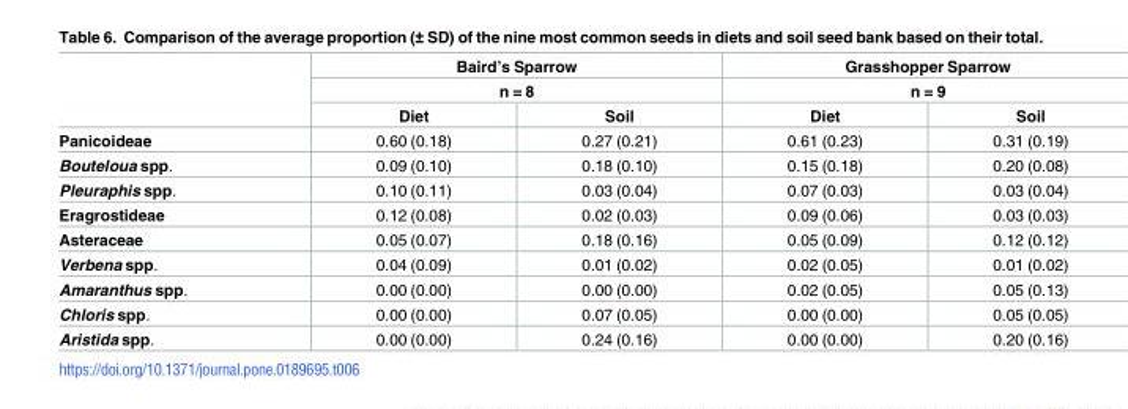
<table><thead><tr><td rowspan="3"></td><td rowspan="2" colspan="2">Baird’s Sparrow n = 8</td><td rowspan="2" colspan="2">Grasshopper Sparrow n = 9</td></tr><tr></tr><tr><td>Diet</td><td>Soil</td><td>Diet</td><td>Soil</td></tr></thead><tbody><tr><td>Panicoideae</td><td>0.60 (0.18)</td><td>0.27 (0.21)</td><td>0.61 (0.23)</td><td>0.31 (0.19)</td></tr><tr><td>Bouteloua spp.</td><td>0.09 (0.10)</td><td>0.18 (0.10)</td><td>0.15 (0.18)</td><td>0.20 (0.08)</td></tr><tr><td>Pleuraphis spp.</td><td>0.10 (0.11)</td><td>0.03 (0.04)</td><td>0.07 (0.03)</td><td>0.03 (0.04)</td></tr><tr><td>Eragrostideae</td><td>0.12 (0.08)</td><td>0.02 (0.03)</td><td>0.09 (0.06)</td><td>0.03 (0.03)</td></tr><tr><td>Asteraceae</td><td>0.05 (0.07)</td><td>0.18 (0.16)</td><td>0.05 (0.09)</td><td>0.12 (0.12)</td></tr><tr><td>Verbena spp.</td><td>0.04 (0.09)</td><td>0.01 (0.02)</td><td>0.02 (0.05)</td><td>0.01 (0.02)</td></tr><tr><td>Amaranthus spp.</td><td>0.00 (0.00)</td><td>0.00 (0.00)</td><td>0.02 (0.05)</td><td>0.05 (0.13)</td></tr><tr><td>Chloris spp.</td><td>0.00 (0.00)</td><td>0.07 (0.05)</td><td>0.00 (0.00)</td><td>0.05 (0.05)</td></tr><tr><td>Aristida spp.</td><td>0.00 (0.00)</td><td>0.24 (0.16)</td><td>0.00 (0.00)</td><td>0.20 (0.16)</td></tr></tbody></table>